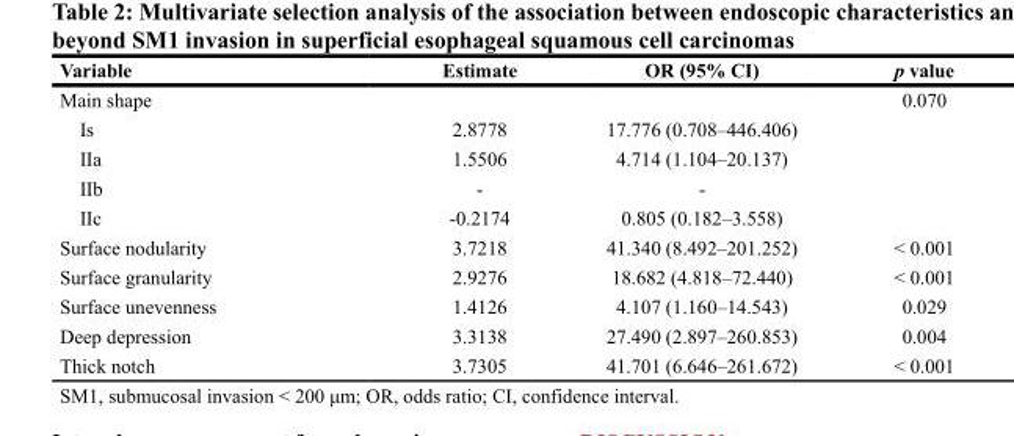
<table><thead><tr><td>Variable</td><td>Estimate</td><td>OR (95% CI)</td><td>p value</td></tr></thead><tbody><tr><td>Main shape</td><td></td><td></td><td>0.070</td></tr><tr><td>Is</td><td>2.8778</td><td>17.776 (0.708–446.406)</td><td></td></tr><tr><td>IIa</td><td>1.5506</td><td>4.714 (1.104–20.137)</td><td></td></tr><tr><td>IIb</td><td>-</td><td>-</td><td></td></tr><tr><td>IIc</td><td>-0.2174</td><td>0.805 (0.182–3.558)</td><td></td></tr><tr><td>Surface nodularity</td><td>3.7218</td><td>41.340 (8.492–201.252)</td><td>&lt; 0.001</td></tr><tr><td>Surface granularity</td><td>2.9276</td><td>18.682 (4.818–72.440)</td><td>&lt; 0.001</td></tr><tr><td>Surface unevenness</td><td>1.4126</td><td>4.107 (1.160–14.543)</td><td>0.029</td></tr><tr><td>Deep depression</td><td>3.3138</td><td>27.490 (2.897–260.853)</td><td>0.004</td></tr><tr><td>Thick notch</td><td>3.7305</td><td>41.701 (6.646–261.672)</td><td>&lt; 0.001</td></tr></tbody></table>